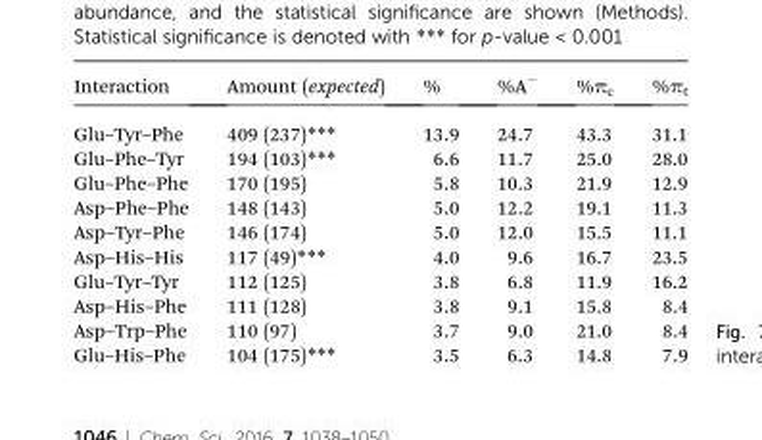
<table><thead><tr><td>Interaction</td><td>Amount (expected)</td><td>%</td><td>%A<sup>–</sup></td><td>%π<sub>c</sub></td><td>%π<sub>t</sub></td></tr></thead><tbody><tr><td>Glu–Tyr–Phe</td><td>409 (237)***</td><td>13.9</td><td>24.7</td><td>43.3</td><td>31.1</td></tr><tr><td>Glu–Phe–Tyr</td><td>194 (103)***</td><td>6.6</td><td>11.7</td><td>25.0</td><td>28.0</td></tr><tr><td>Glu–Phe–Phe</td><td>170 (195)</td><td>5.8</td><td>10.3</td><td>21.9</td><td>12.9</td></tr><tr><td>Asp–Phe–Phe</td><td>148 (143)</td><td>5.0</td><td>12.2</td><td>19.1</td><td>11.3</td></tr><tr><td>Asp–Tyr–Phe</td><td>146 (174)</td><td>5.0</td><td>12.0</td><td>15.5</td><td>11.1</td></tr><tr><td>Asp–His–His</td><td>117 (49)***</td><td>4.0</td><td>9.6</td><td>16.7</td><td>23.5</td></tr><tr><td>Glu–Tyr–Tyr</td><td>112 (125)</td><td>3.8</td><td>6.8</td><td>11.9</td><td>16.2</td></tr><tr><td>Asp–His–Phe</td><td>111 (128)</td><td>3.8</td><td>9.1</td><td>15.8</td><td>8.4</td></tr><tr><td>Asp–Trp–Phe</td><td>110 (97)</td><td>3.7</td><td>9.0</td><td>21.0</td><td>8.4</td></tr><tr><td>Glu–His–Phe</td><td>104 (175)***</td><td>3.5</td><td>6.3</td><td>14.8</td><td>7.9</td></tr></tbody></table>